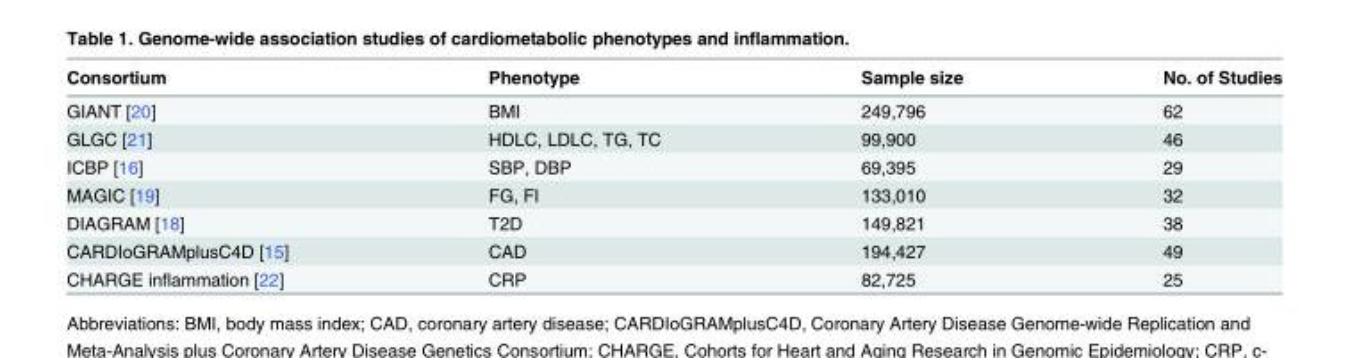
<table><thead><tr><td>Consortium</td><td>Phenotype</td><td>Sample size</td><td>No. of Studies</td></tr></thead><tbody><tr><td>GIANT [20]</td><td>BMI</td><td>249,796</td><td>62</td></tr><tr><td>GLGC [21]</td><td>HDLC, LDLC, TG, TC</td><td>99,900</td><td>46</td></tr><tr><td>ICBP [16]</td><td>SBP, DBP</td><td>69,395</td><td>29</td></tr><tr><td>MAGIC [19]</td><td>FG, FI</td><td>133,010</td><td>32</td></tr><tr><td>DIAGRAM [18]</td><td>T2D</td><td>149,821</td><td>38</td></tr><tr><td>CARDIoGRAMplusC4D [15]</td><td>CAD</td><td>194,427</td><td>49</td></tr><tr><td>CHARGE inflammation [22]</td><td>CRP</td><td>82,725</td><td>25</td></tr></tbody></table>